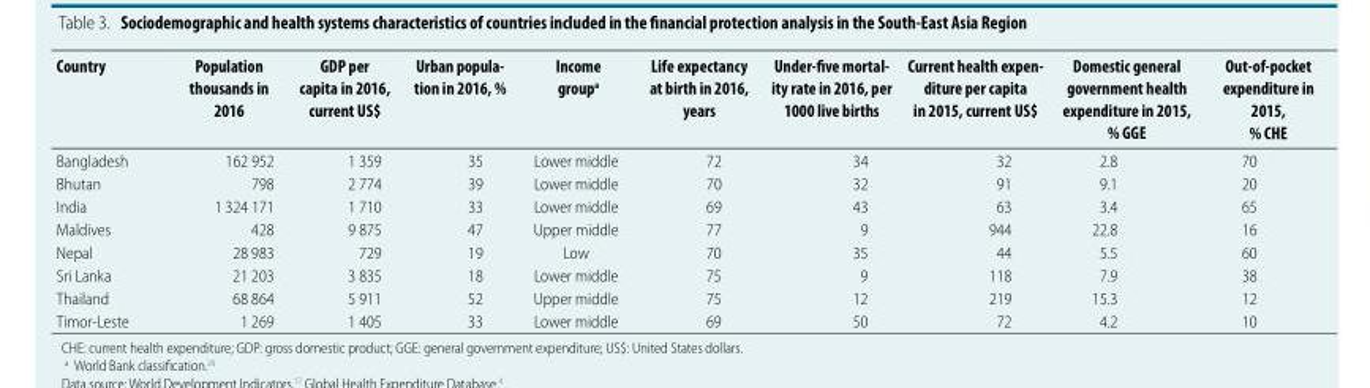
<table><thead><tr><td>Country</td><td>Population thousands in 2016</td><td>GDP per capita in 2016, current US$</td><td>Urban popula- tion in 2016, %</td><td>Income group<sup>a</sup></td><td>Life expectancy at birth in 2016, years</td><td>Under-five mortal- ity rate in 2016, per 1000 live births</td><td>Current health expen- diture per capita in 2015, current US$</td><td>Domestic general government health expenditure in 2015, % GGE</td><td>Out-of-pocket expenditure in 2015, % CHE</td></tr></thead><tbody><tr><td>Bangladesh</td><td>162 952</td><td>1 359</td><td>35</td><td>Lower middle</td><td>72</td><td>34</td><td>32</td><td>2.8</td><td>70</td></tr><tr><td>Bhutan</td><td>798</td><td>2 774</td><td>39</td><td>Lower middle</td><td>70</td><td>32</td><td>91</td><td>9.1</td><td>20</td></tr><tr><td>India</td><td>1 324 171</td><td>1 710</td><td>33</td><td>Lower middle</td><td>69</td><td>43</td><td>63</td><td>3.4</td><td>65</td></tr><tr><td>Maldives</td><td>428</td><td>9 875</td><td>47</td><td>Upper middle</td><td>77</td><td>9</td><td>944</td><td>22.8</td><td>16</td></tr><tr><td>Nepal</td><td>28 983</td><td>729</td><td>19</td><td>Low</td><td>70</td><td>35</td><td>44</td><td>5.5</td><td>60</td></tr><tr><td>Sri Lanka</td><td>21 203</td><td>3 835</td><td>18</td><td>Lower middle</td><td>75</td><td>9</td><td>118</td><td>7.9</td><td>38</td></tr><tr><td>Thailand</td><td>68 864</td><td>5 911</td><td>52</td><td>Upper middle</td><td>75</td><td>12</td><td>219</td><td>15.3</td><td>12</td></tr><tr><td>Timor-Leste</td><td>1 269</td><td>1 405</td><td>33</td><td>Lower middle</td><td>69</td><td>50</td><td>72</td><td>4.2</td><td>10</td></tr></tbody></table>